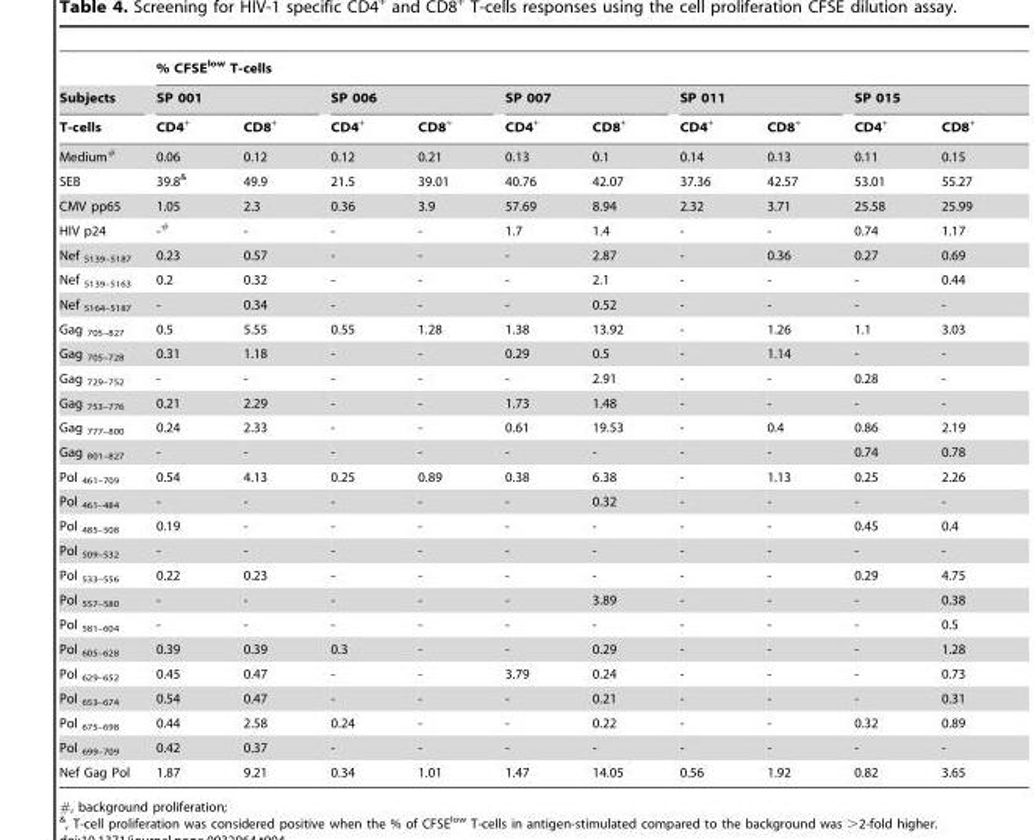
<table><thead><tr><td rowspan="3">Subjects T-cells</td><td colspan="10">% CFSE<sup>low</sup> T-cells</td></tr><tr><td colspan="2">SP 001</td><td colspan="2">SP 006</td><td colspan="2">SP 007</td><td colspan="2">SP 011</td><td colspan="2">SP 015</td></tr><tr><td>CD4<sup>+</sup></td><td>CD8<sup>+</sup></td><td>CD4<sup>+</sup></td><td>CD8<sup>+</sup></td><td>CD4<sup>+</sup></td><td>CD8<sup>+</sup></td><td>CD4<sup>+</sup></td><td>CD8<sup>+</sup></td><td>CD4<sup>+</sup></td><td>CD8<sup>+</sup></td></tr></thead><tbody><tr><td>Medium#</td><td>0.06</td><td>0.12</td><td>0.12</td><td>0.21</td><td>0.13</td><td>0.1</td><td>0.14</td><td>0.13</td><td>0.11</td><td>0.15</td></tr><tr><td>SEB</td><td>39.8&amp;</td><td>49.9</td><td>21.5</td><td>39.01</td><td>40.76</td><td>42.07</td><td>37.36</td><td>42.57</td><td>53.01</td><td>55.27</td></tr><tr><td>CMV pp65</td><td>1.05</td><td>2.3</td><td>0.36</td><td>3.9</td><td>57.69</td><td>8.94</td><td>2.32</td><td>3.71</td><td>25.58</td><td>25.99</td></tr><tr><td>HIV p24</td><td>-#</td><td>-</td><td>-</td><td>-</td><td>1.7</td><td>1.4</td><td>-</td><td>-</td><td>0.74</td><td>1.17</td></tr><tr><td>Nef <sub>5139–5187</sub></td><td>0.23</td><td>0.57</td><td>-</td><td>-</td><td>-</td><td>2.87</td><td>-</td><td>0.36</td><td>0.27</td><td>0.69</td></tr><tr><td>Nef <sub>5139–5163</sub></td><td>0.2</td><td>0.32</td><td>-</td><td>-</td><td>-</td><td>2.1</td><td>-</td><td>-</td><td>-</td><td>0.44</td></tr><tr><td>Nef <sub>5164–5187</sub></td><td>-</td><td>0.34</td><td>-</td><td>-</td><td>-</td><td>0.52</td><td>-</td><td>-</td><td>-</td><td>-</td></tr><tr><td>Gag <sub>705–827</sub></td><td>0.5</td><td>5.55</td><td>0.55</td><td>1.28</td><td>1.38</td><td>13.92</td><td>-</td><td>1.26</td><td>1.1</td><td>3.03</td></tr><tr><td>Gag <sub>705–728</sub></td><td>0.31</td><td>1.18</td><td>-</td><td>-</td><td>0.29</td><td>0.5</td><td>-</td><td>1.14</td><td>-</td><td>-</td></tr><tr><td>Gag <sub>729–752</sub></td><td>-</td><td>-</td><td>-</td><td>-</td><td>-</td><td>2.91</td><td>-</td><td>-</td><td>0.28</td><td>-</td></tr><tr><td>Gag <sub>753–776</sub></td><td>0.21</td><td>2.29</td><td>-</td><td>-</td><td>1.73</td><td>1.48</td><td>-</td><td>-</td><td>-</td><td>-</td></tr><tr><td>Gag <sub>777–800</sub></td><td>0.24</td><td>2.33</td><td>-</td><td>-</td><td>0.61</td><td>19.53</td><td>-</td><td>0.4</td><td>0.86</td><td>2.19</td></tr><tr><td>Gag <sub>801–827</sub></td><td>-</td><td>-</td><td>-</td><td>-</td><td>-</td><td>-</td><td>-</td><td>-</td><td>0.74</td><td>0.78</td></tr><tr><td>Pol <sub>461–709</sub></td><td>0.54</td><td>4.13</td><td>0.25</td><td>0.89</td><td>0.38</td><td>6.38</td><td>-</td><td>1.13</td><td>0.25</td><td>2.26</td></tr><tr><td>Pol <sub>461–484</sub></td><td>-</td><td>-</td><td>-</td><td>-</td><td>-</td><td>0.32</td><td>-</td><td>-</td><td>-</td><td>-</td></tr><tr><td>Pol <sub>485–508</sub></td><td>0.19</td><td>-</td><td>-</td><td>-</td><td>-</td><td>-</td><td>-</td><td>-</td><td>0.45</td><td>0.4</td></tr><tr><td>Pol <sub>509–532</sub></td><td>-</td><td>-</td><td>-</td><td>-</td><td>-</td><td>-</td><td>-</td><td>-</td><td>-</td><td>-</td></tr><tr><td>Pol <sub>533–556</sub></td><td>0.22</td><td>0.23</td><td>-</td><td>-</td><td>-</td><td>-</td><td>-</td><td>-</td><td>0.29</td><td>4.75</td></tr><tr><td>Pol <sub>557–580</sub></td><td>-</td><td>-</td><td>-</td><td>-</td><td>-</td><td>3.89</td><td>-</td><td>-</td><td>-</td><td>0.38</td></tr><tr><td>Pol <sub>581–604</sub></td><td>-</td><td>-</td><td>-</td><td>-</td><td>-</td><td>-</td><td>-</td><td>-</td><td>-</td><td>0.5</td></tr><tr><td>Pol <sub>605–628</sub></td><td>0.39</td><td>0.39</td><td>0.3</td><td>-</td><td>-</td><td>0.29</td><td>-</td><td>-</td><td>-</td><td>1.28</td></tr><tr><td>Pol <sub>629–652</sub></td><td>0.45</td><td>0.47</td><td>-</td><td>-</td><td>3.79</td><td>0.24</td><td>-</td><td>-</td><td>-</td><td>0.73</td></tr><tr><td>Pol <sub>653–674</sub></td><td>0.54</td><td>0.47</td><td>-</td><td>-</td><td>-</td><td>0.21</td><td>-</td><td>-</td><td>-</td><td>0.31</td></tr><tr><td>Pol <sub>675–698</sub></td><td>0.44</td><td>2.58</td><td>0.24</td><td>-</td><td>-</td><td>0.22</td><td>-</td><td>-</td><td>0.32</td><td>0.89</td></tr><tr><td>Pol <sub>699–709</sub></td><td>0.42</td><td>0.37</td><td>-</td><td>-</td><td>-</td><td>-</td><td>-</td><td>-</td><td>-</td><td>-</td></tr><tr><td>Nef Gag Pol</td><td>1.87</td><td>9.21</td><td>0.34</td><td>1.01</td><td>1.47</td><td>14.05</td><td>0.56</td><td>1.92</td><td>0.82</td><td>3.65</td></tr></tbody></table>